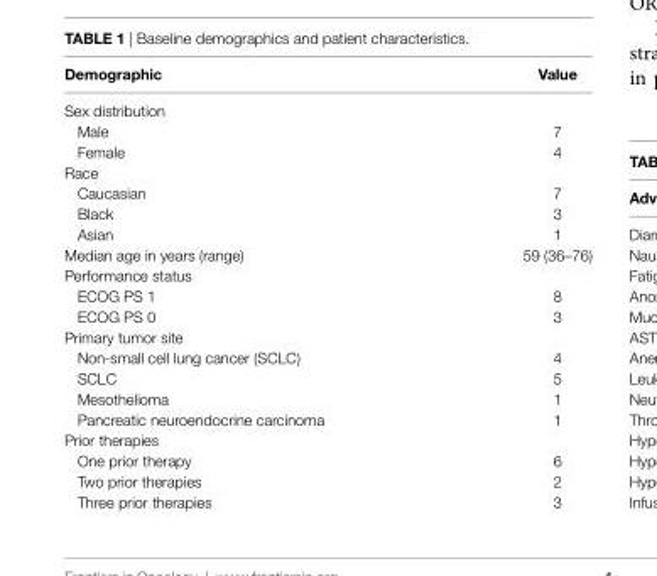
<table><thead><tr><td>Demographic</td><td>Value</td></tr></thead><tbody><tr><td colspan="2">Sex distribution</td></tr><tr><td>Male</td><td>7</td></tr><tr><td>Female</td><td>4</td></tr><tr><td colspan="2">Race</td></tr><tr><td>Caucasian</td><td>7</td></tr><tr><td>Black</td><td>3</td></tr><tr><td>Asian</td><td>1</td></tr><tr><td>Median age in years (range)</td><td>59 (36–76)</td></tr><tr><td colspan="2">Performance status</td></tr><tr><td>ECOG PS 1</td><td>8</td></tr><tr><td>ECOG PS 0</td><td>3</td></tr><tr><td colspan="2">Primary tumor site</td></tr><tr><td>Non-small cell lung cancer (SCLC)</td><td>4</td></tr><tr><td>SCLC</td><td>5</td></tr><tr><td>Mesothelioma</td><td>1</td></tr><tr><td>Pancreatic neuroendocrine carcinoma</td><td>1</td></tr><tr><td colspan="2">Prior therapies</td></tr><tr><td>One prior therapy</td><td>6</td></tr><tr><td>Two prior therapies</td><td>2</td></tr><tr><td>Three prior therapies</td><td>3</td></tr></tbody></table>